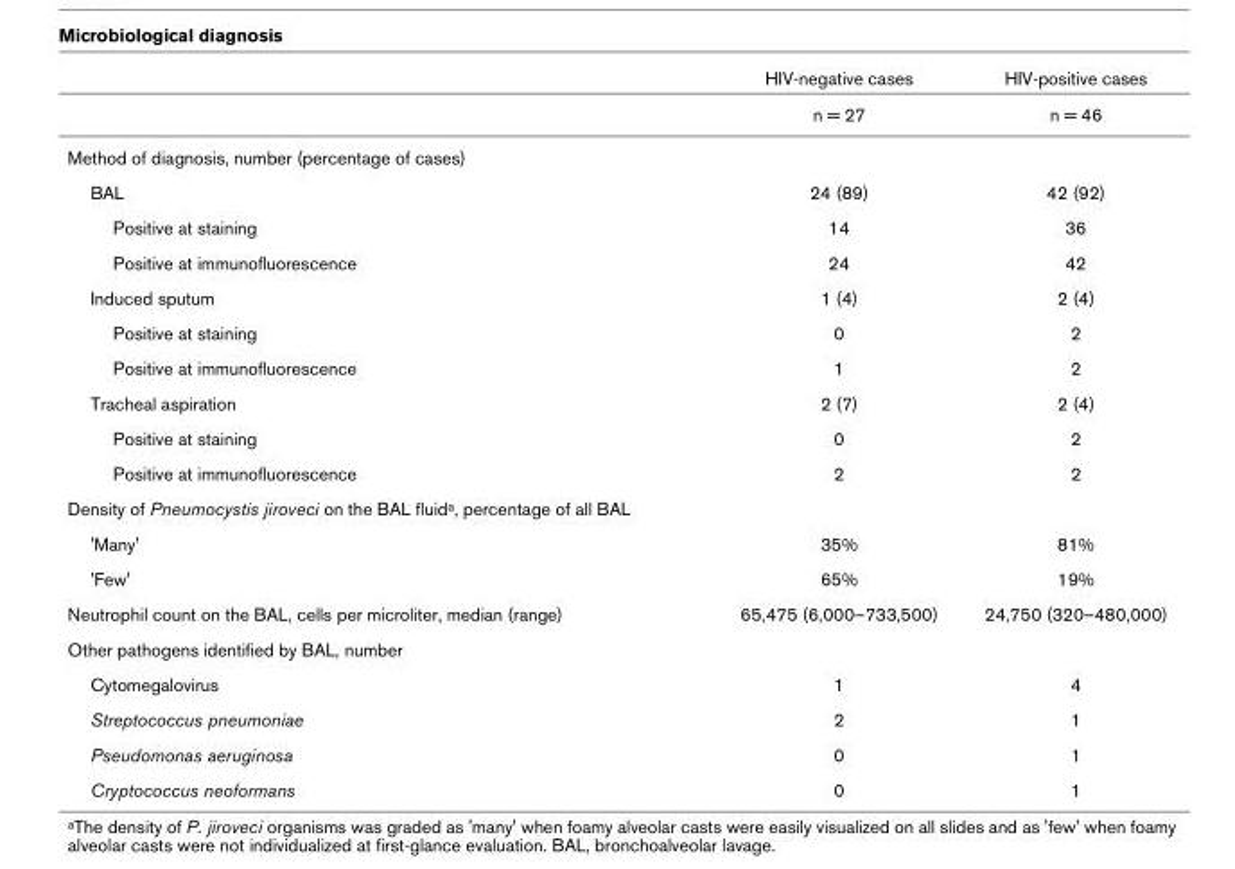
<table><thead><tr><td></td><td>HIV-negative cases</td><td>HIV-positive cases</td></tr></thead><tbody><tr><td></td><td>n = 27</td><td>n = 46</td></tr><tr><td colspan="3">Method of diagnosis, number (percentage of cases)</td></tr><tr><td>BAL</td><td>24 (89)</td><td>42 (92)</td></tr><tr><td>Positive at staining</td><td>14</td><td>36</td></tr><tr><td>Positive at immunofluorescence</td><td>24</td><td>42</td></tr><tr><td>Induced sputum</td><td>1 (4)</td><td>2 (4)</td></tr><tr><td>Positive at staining</td><td>0</td><td>2</td></tr><tr><td>Positive at immunofluorescence</td><td>1</td><td>2</td></tr><tr><td>Tracheal aspiration</td><td>2 (7)</td><td>2 (4)</td></tr><tr><td>Positive at staining</td><td>0</td><td>2</td></tr><tr><td>Positive at immunofluorescence</td><td>2</td><td>2</td></tr><tr><td colspan="3">Density of Pneumocystis jiroveci on the BAL fluid<sup>a</sup>, percentage of all BAL</td></tr><tr><td>&#x27;Many&#x27;</td><td>35%</td><td>81%</td></tr><tr><td>&#x27;Few&#x27;</td><td>65%</td><td>19%</td></tr><tr><td>Neutrophil count on the BAL, cells per microliter, median (range)</td><td>65,475 (6,000–733,500)</td><td>24,750 (320–480,000)</td></tr><tr><td colspan="3">Other pathogens identified by BAL, number</td></tr><tr><td>Cytomegalovirus</td><td>1</td><td>4</td></tr><tr><td>Streptococcus pneumoniae</td><td>2</td><td>1</td></tr><tr><td>Pseudomonas aeruginosa</td><td>0</td><td>1</td></tr><tr><td>Cryptococcus neoformans</td><td>0</td><td>1</td></tr></tbody></table>